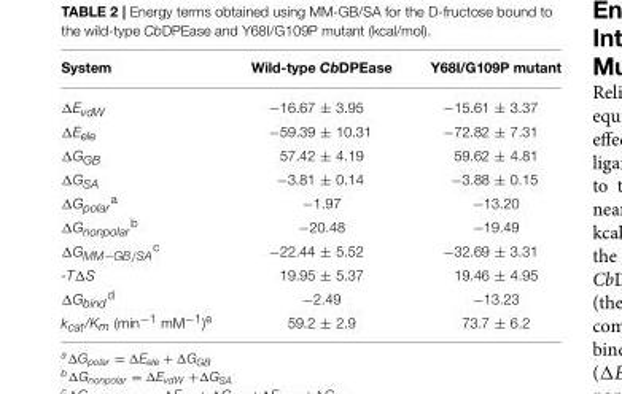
<table><thead><tr><td>System</td><td>Wild-type CbDPEase</td><td>Y68I/G109P mutant</td></tr></thead><tbody><tr><td>ΔEvdW</td><td>−16.67 ± 3.95</td><td>−15.61 ± 3.37</td></tr><tr><td>ΔEele</td><td>−59.39 ± 10.31</td><td>−72.82 ± 7.31</td></tr><tr><td>ΔGGB</td><td>57.42 ± 4.19</td><td>59.62 ± 4.81</td></tr><tr><td>ΔGSA</td><td>−3.81 ± 0.14</td><td>−3.88 ± 0.15</td></tr><tr><td>ΔGpolara</td><td>−1.97</td><td>−13.20</td></tr><tr><td>ΔGnonpolarb</td><td>−20.48</td><td>−19.49</td></tr><tr><td>ΔGMM−GB/SAc</td><td>−22.44 ± 5.52</td><td>−32.69 ± 3.31</td></tr><tr><td>-TΔS</td><td>19.95 ± 5.37</td><td>19.46 ± 4.95</td></tr><tr><td>ΔGbindd</td><td>−2.49</td><td>−13.23</td></tr><tr><td>kcat/Km (min−1 mM−1)e</td><td>59.2 ± 2.9</td><td>73.7 ± 6.2</td></tr></tbody></table>